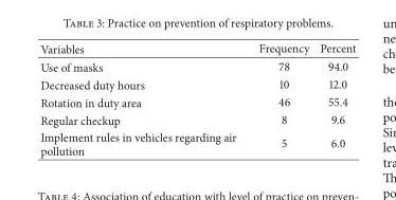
<table><thead><tr><td>Variables</td><td>Frequency</td><td>Percent</td></tr></thead><tbody><tr><td>Use of masks</td><td>78</td><td>94.0</td></tr><tr><td>Decreased duty hours</td><td>10</td><td>12.0</td></tr><tr><td>Rotation in duty area</td><td>46</td><td>55.4</td></tr><tr><td>Regular checkup</td><td>8</td><td>9.6</td></tr><tr><td>Implement rules in vehicles regarding air pollution</td><td>5</td><td>6.0</td></tr></tbody></table>